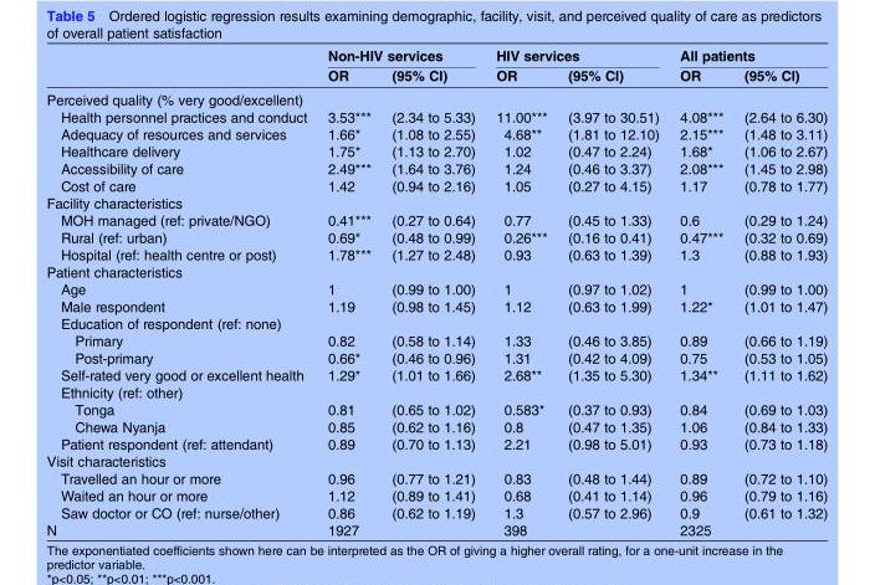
<table><thead><tr><td rowspan="2"></td><td colspan="2">Non-HIV services</td><td colspan="2">HIV services</td><td colspan="2">All patients</td></tr><tr><td>OR</td><td>(95% CI)</td><td>OR</td><td>(95% CI)</td><td>OR</td><td>(95% CI)</td></tr></thead><tbody><tr><td colspan="7">Perceived quality (% very good/excellent)</td></tr><tr><td>Health personnel practices and conduct</td><td>3.53***</td><td>(2.34 to 5.33)</td><td>11.00***</td><td>(3.97 to 30.51)</td><td>4.08***</td><td>(2.64 to 6.30)</td></tr><tr><td>Adequacy of resources and services</td><td>1.66*</td><td>(1.08 to 2.55)</td><td>4.68**</td><td>(1.81 to 12.10)</td><td>2.15***</td><td>(1.48 to 3.11)</td></tr><tr><td>Healthcare delivery</td><td>1.75*</td><td>(1.13 to 2.70)</td><td>1.02</td><td>(0.47 to 2.24)</td><td>1.68*</td><td>(1.06 to 2.67)</td></tr><tr><td>Accessibility of care</td><td>2.49***</td><td>(1.64 to 3.76)</td><td>1.24</td><td>(0.46 to 3.37)</td><td>2.08***</td><td>(1.45 to 2.98)</td></tr><tr><td>Cost of care</td><td>1.42</td><td>(0.94 to 2.16)</td><td>1.05</td><td>(0.27 to 4.15)</td><td>1.17</td><td>(0.78 to 1.77)</td></tr><tr><td colspan="7">Facility characteristics</td></tr><tr><td>MOH managed (ref: private/NGO)</td><td>0.41***</td><td>(0.27 to 0.64)</td><td>0.77</td><td>(0.45 to 1.33)</td><td>0.6</td><td>(0.29 to 1.24)</td></tr><tr><td>Rural (ref: urban)</td><td>0.69*</td><td>(0.48 to 0.99)</td><td>0.26***</td><td>(0.16 to 0.41)</td><td>0.47***</td><td>(0.32 to 0.69)</td></tr><tr><td>Hospital (ref: health centre or post)</td><td>1.78***</td><td>(1.27 to 2.48)</td><td>0.93</td><td>(0.63 to 1.39)</td><td>1.3</td><td>(0.88 to 1.93)</td></tr><tr><td colspan="7">Patient characteristics</td></tr><tr><td>Age</td><td>1</td><td>(0.99 to 1.00)</td><td>1</td><td>(0.97 to 1.02)</td><td>1</td><td>(0.99 to 1.00)</td></tr><tr><td>Male respondent</td><td>1.19</td><td>(0.98 to 1.45)</td><td>1.12</td><td>(0.63 to 1.99)</td><td>1.22*</td><td>(1.01 to 1.47)</td></tr><tr><td colspan="7">Education of respondent (ref: none)</td></tr><tr><td>Primary</td><td>0.82</td><td>(0.58 to 1.14)</td><td>1.33</td><td>(0.46 to 3.85)</td><td>0.89</td><td>(0.66 to 1.19)</td></tr><tr><td>Post-primary</td><td>0.66*</td><td>(0.46 to 0.96)</td><td>1.31</td><td>(0.42 to 4.09)</td><td>0.75</td><td>(0.53 to 1.05)</td></tr><tr><td>Self-rated very good or excellent health</td><td>1.29*</td><td>(1.01 to 1.66)</td><td>2.68**</td><td>(1.35 to 5.30)</td><td>1.34**</td><td>(1.11 to 1.62)</td></tr><tr><td colspan="7">Ethnicity (ref: other)</td></tr><tr><td>Tonga</td><td>0.81</td><td>(0.65 to 1.02)</td><td>0.583*</td><td>(0.37 to 0.93)</td><td>0.84</td><td>(0.69 to 1.03)</td></tr><tr><td>Chewa Nyanja</td><td>0.85</td><td>(0.62 to 1.16)</td><td>0.8</td><td>(0.47 to 1.35)</td><td>1.06</td><td>(0.84 to 1.33)</td></tr><tr><td>Patient respondent (ref: attendant)</td><td>0.89</td><td>(0.70 to 1.13)</td><td>2.21</td><td>(0.98 to 5.01)</td><td>0.93</td><td>(0.73 to 1.18)</td></tr><tr><td colspan="7">Visit characteristics</td></tr><tr><td>Travelled an hour or more</td><td>0.96</td><td>(0.77 to 1.21)</td><td>0.83</td><td>(0.48 to 1.44)</td><td>0.89</td><td>(0.72 to 1.10)</td></tr><tr><td>Waited an hour or more</td><td>1.12</td><td>(0.89 to 1.41)</td><td>0.68</td><td>(0.41 to 1.14)</td><td>0.96</td><td>(0.79 to 1.16)</td></tr><tr><td>Saw doctor or CO (ref: nurse/other)</td><td>0.86</td><td>(0.62 to 1.19)</td><td>1.3</td><td>(0.57 to 2.96)</td><td>0.9</td><td>(0.61 to 1.32)</td></tr><tr><td>N</td><td colspan="2">1927</td><td colspan="2">398</td><td colspan="2">2325</td></tr></tbody></table>